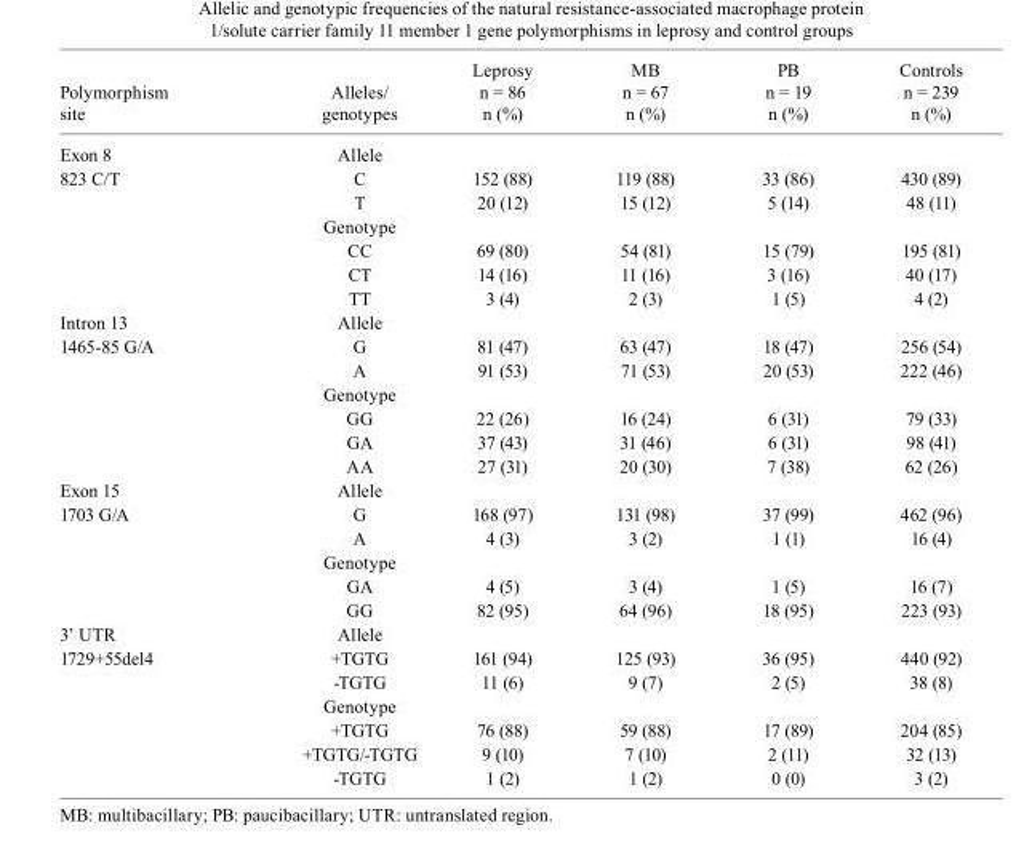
<table><thead><tr><td>Polymorphism site</td><td>Alleles/ genotypes</td><td>Leprosy n = 86 n (%)</td><td>MB n = 67 n (%)</td><td>PB n = 19 n (%)</td><td>Controls n = 239 n (%)</td></tr></thead><tbody><tr><td>Exon 8</td><td>Allele</td><td></td><td></td><td></td><td></td></tr><tr><td rowspan="6">823 C/T</td><td>C</td><td>152 (88)</td><td>119 (88)</td><td>33 (86)</td><td>430 (89)</td></tr><tr><td>T</td><td>20 (12)</td><td>15 (12)</td><td>5 (14)</td><td>48 (11)</td></tr><tr><td>Genotype</td><td></td><td></td><td></td><td></td></tr><tr><td>CC</td><td>69 (80)</td><td>54 (81)</td><td>15 (79)</td><td>195 (81)</td></tr><tr><td>CT</td><td>14 (16)</td><td>11 (16)</td><td>3 (16)</td><td>40 (17)</td></tr><tr><td>TT</td><td>3 (4)</td><td>2 (3)</td><td>1 (5)</td><td>4 (2)</td></tr><tr><td>Intron 13</td><td>Allele</td><td></td><td></td><td></td><td></td></tr><tr><td rowspan="6">1465-85 G/A</td><td>G</td><td>81 (47)</td><td>63 (47)</td><td>18 (47)</td><td>256 (54)</td></tr><tr><td>A</td><td>91 (53)</td><td>71 (53)</td><td>20 (53)</td><td>222 (46)</td></tr><tr><td>Genotype</td><td></td><td></td><td></td><td></td></tr><tr><td>GG</td><td>22 (26)</td><td>16 (24)</td><td>6 (31)</td><td>79 (33)</td></tr><tr><td>GA</td><td>37 (43)</td><td>31 (46)</td><td>6 (31)</td><td>98 (41)</td></tr><tr><td>AA</td><td>27 (31)</td><td>20 (30)</td><td>7 (38)</td><td>62 (26)</td></tr><tr><td>Exon 15</td><td>Allele</td><td></td><td></td><td></td><td></td></tr><tr><td rowspan="5">1703 G/A</td><td>G</td><td>168 (97)</td><td>131 (98)</td><td>37 (99)</td><td>462 (96)</td></tr><tr><td>A</td><td>4 (3)</td><td>3 (2)</td><td>1 (1)</td><td>16 (4)</td></tr><tr><td>Genotype</td><td></td><td></td><td></td><td></td></tr><tr><td>GA</td><td>4 (5)</td><td>3 (4)</td><td>1 (5)</td><td>16 (7)</td></tr><tr><td>GG</td><td>82 (95)</td><td>64 (96)</td><td>18 (95)</td><td>223 (93)</td></tr><tr><td>3’ UTR</td><td>Allele</td><td></td><td></td><td></td><td></td></tr><tr><td rowspan="6">1729+55del4</td><td>+TGTG</td><td>161 (94)</td><td>125 (93)</td><td>36 (95)</td><td>440 (92)</td></tr><tr><td>-TGTG</td><td>11 (6)</td><td>9 (7)</td><td>2 (5)</td><td>38 (8)</td></tr><tr><td>Genotype</td><td></td><td></td><td></td><td></td></tr><tr><td>+TGTG</td><td>76 (88)</td><td>59 (88)</td><td>17 (89)</td><td>204 (85)</td></tr><tr><td>+TGTG/-TGTG</td><td>9 (10)</td><td>7 (10)</td><td>2 (11)</td><td>32 (13)</td></tr><tr><td>-TGTG</td><td>1 (2)</td><td>1 (2)</td><td>0 (0)</td><td>3 (2)</td></tr></tbody></table>